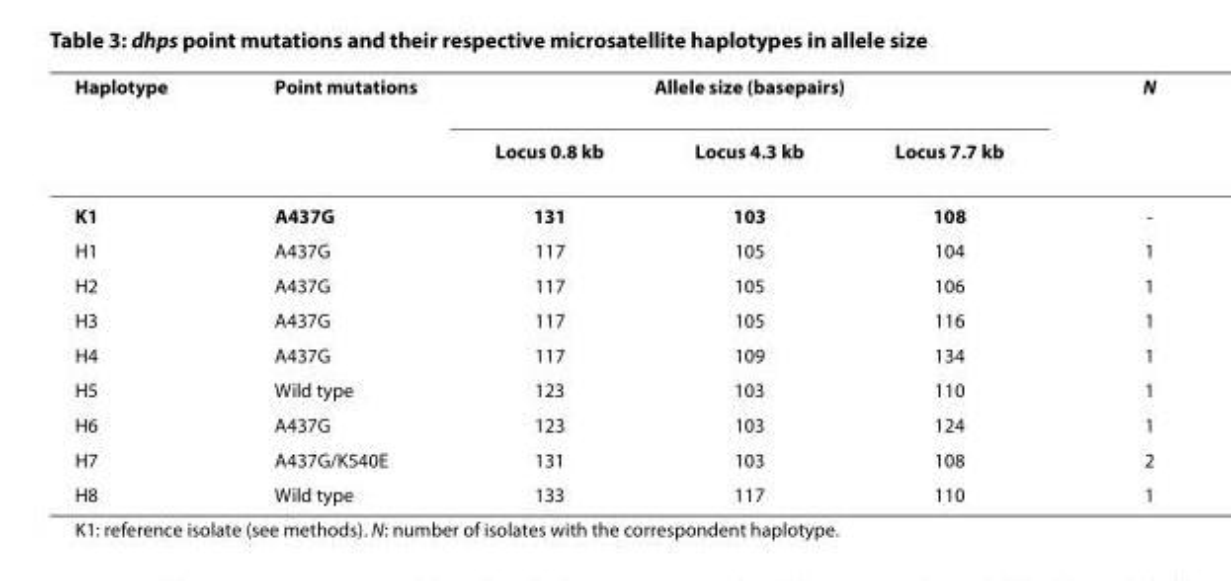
<table><thead><tr><td rowspan="2">Haplotype</td><td rowspan="2">Point mutations</td><td colspan="3">Allele size (basepairs)</td><td rowspan="2">N</td></tr><tr><td>Locus 0.8 kb</td><td>Locus 4.3 kb</td><td>Locus 7.7 kb</td></tr></thead><tbody><tr><td>K1</td><td>A437G</td><td>131</td><td>103</td><td>108</td><td>-</td></tr><tr><td>H1</td><td>A437G</td><td>117</td><td>105</td><td>104</td><td>1</td></tr><tr><td>H2</td><td>A437G</td><td>117</td><td>105</td><td>106</td><td>1</td></tr><tr><td>H3</td><td>A437G</td><td>117</td><td>105</td><td>116</td><td>1</td></tr><tr><td>H4</td><td>A437G</td><td>117</td><td>109</td><td>134</td><td>1</td></tr><tr><td>H5</td><td>Wild type</td><td>123</td><td>103</td><td>110</td><td>1</td></tr><tr><td>H6</td><td>A437G</td><td>123</td><td>103</td><td>124</td><td>1</td></tr><tr><td>H7</td><td>A437G/K540E</td><td>131</td><td>103</td><td>108</td><td>2</td></tr><tr><td>H8</td><td>Wild type</td><td>133</td><td>117</td><td>110</td><td>1</td></tr></tbody></table>